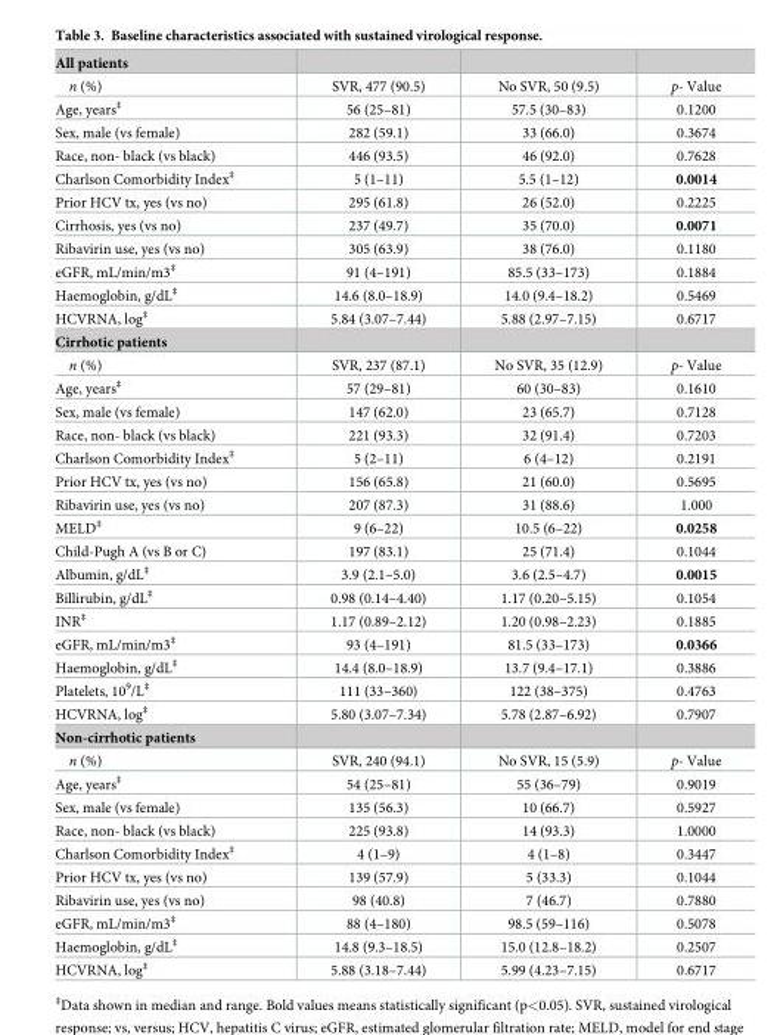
<table><tbody><tr><td colspan="4">All patients</td></tr><tr><td>n (%)</td><td>SVR, 477 (90.5)</td><td>No SVR, 50 (9.5)</td><td>p- Value</td></tr><tr><td>Age, years<sup>‡</sup></td><td>56 (25–81)</td><td>57.5 (30–83)</td><td>0.1200</td></tr><tr><td>Sex, male (vs female)</td><td>282 (59.1)</td><td>33 (66.0)</td><td>0.3674</td></tr><tr><td>Race, non- black (vs black)</td><td>446 (93.5)</td><td>46 (92.0)</td><td>0.7628</td></tr><tr><td>Charlson Comorbidity Index<sup>‡</sup></td><td>5 (1–11)</td><td>5.5 (1–12)</td><td>0.0014</td></tr><tr><td>Prior HCV tx, yes (vs no)</td><td>295 (61.8)</td><td>26 (52.0)</td><td>0.2225</td></tr><tr><td>Cirrhosis, yes (vs no)</td><td>237 (49.7)</td><td>35 (70.0)</td><td>0.0071</td></tr><tr><td>Ribavirin use, yes (vs no)</td><td>305 (63.9)</td><td>38 (76.0)</td><td>0.1180</td></tr><tr><td>eGFR, mL/min/m3<sup>‡</sup></td><td>91 (4–191)</td><td>85.5 (33–173)</td><td>0.1884</td></tr><tr><td>Haemoglobin, g/dL<sup>‡</sup></td><td>14.6 (8.0–18.9)</td><td>14.0 (9.4–18.2)</td><td>0.5469</td></tr><tr><td>HCVRNA, log<sup>‡</sup></td><td>5.84 (3.07–7.44)</td><td>5.88 (2.97–7.15)</td><td>0.6717</td></tr><tr><td colspan="4">Cirrhotic patients</td></tr><tr><td>n (%)</td><td>SVR, 237 (87.1)</td><td>No SVR, 35 (12.9)</td><td>p- Value</td></tr><tr><td>Age, years<sup>‡</sup></td><td>57 (29–81)</td><td>60 (30–83)</td><td>0.1610</td></tr><tr><td>Sex, male (vs female)</td><td>147 (62.0)</td><td>23 (65.7)</td><td>0.7128</td></tr><tr><td>Race, non- black (vs black)</td><td>221 (93.3)</td><td>32 (91.4)</td><td>0.7203</td></tr><tr><td>Charlson Comorbidity Index<sup>‡</sup></td><td>5 (2–11)</td><td>6 (4–12)</td><td>0.2191</td></tr><tr><td>Prior HCV tx, yes (vs no)</td><td>156 (65.8)</td><td>21 (60.0)</td><td>0.5695</td></tr><tr><td>Ribavirin use, yes (vs no)</td><td>207 (87.3)</td><td>31 (88.6)</td><td>1.000</td></tr><tr><td>MELD<sup>‡</sup></td><td>9 (6–22)</td><td>10.5 (6–22)</td><td>0.0258</td></tr><tr><td>Child-Pugh A (vs B or C)</td><td>197 (83.1)</td><td>25 (71.4)</td><td>0.1044</td></tr><tr><td>Albumin, g/dL<sup>‡</sup></td><td>3.9 (2.1–5.0)</td><td>3.6 (2.5–4.7)</td><td>0.0015</td></tr><tr><td>Billirubin, g/dL<sup>‡</sup></td><td>0.98 (0.14–4.40)</td><td>1.17 (0.20–5.15)</td><td>0.1054</td></tr><tr><td>INR<sup>‡</sup></td><td>1.17 (0.89–2.12)</td><td>1.20 (0.98–2.23)</td><td>0.1885</td></tr><tr><td>eGFR, mL/min/m3<sup>‡</sup></td><td>93 (4–191)</td><td>81.5 (33–173)</td><td>0.0366</td></tr><tr><td>Haemoglobin, g/dL<sup>‡</sup></td><td>14.4 (8.0–18.9)</td><td>13.7 (9.4–17.1)</td><td>0.3886</td></tr><tr><td>Platelets, 10<sup>9</sup>/L<sup>‡</sup></td><td>111 (33–360)</td><td>122 (38–375)</td><td>0.4763</td></tr><tr><td>HCVRNA, log<sup>‡</sup></td><td>5.80 (3.07–7.34)</td><td>5.78 (2.87–6.92)</td><td>0.7907</td></tr><tr><td colspan="4">Non-cirrhotic patients</td></tr><tr><td>n (%)</td><td>SVR, 240 (94.1)</td><td>No SVR, 15 (5.9)</td><td>p- Value</td></tr><tr><td>Age, years<sup>‡</sup></td><td>54 (25–81)</td><td>55 (36–79)</td><td>0.9019</td></tr><tr><td>Sex, male (vs female)</td><td>135 (56.3)</td><td>10 (66.7)</td><td>0.5927</td></tr><tr><td>Race, non- black (vs black)</td><td>225 (93.8)</td><td>14 (93.3)</td><td>1.0000</td></tr><tr><td>Charlson Comorbidity Index<sup>‡</sup></td><td>4 (1–9)</td><td>4 (1–8)</td><td>0.3447</td></tr><tr><td>Prior HCV tx, yes (vs no)</td><td>139 (57.9)</td><td>5 (33.3)</td><td>0.1044</td></tr><tr><td>Ribavirin use, yes (vs no)</td><td>98 (40.8)</td><td>7 (46.7)</td><td>0.7880</td></tr><tr><td>eGFR, mL/min/m3<sup>‡</sup></td><td>88 (4–180)</td><td>98.5 (59–116)</td><td>0.5078</td></tr><tr><td>Haemoglobin, g/dL<sup>‡</sup></td><td>14.8 (9.3–18.5)</td><td>15.0 (12.8–18.2)</td><td>0.2507</td></tr><tr><td>HCVRNA, log<sup>‡</sup></td><td>5.88 (3.18–7.44)</td><td>5.99 (4.23–7.15)</td><td>0.6717</td></tr></tbody></table>